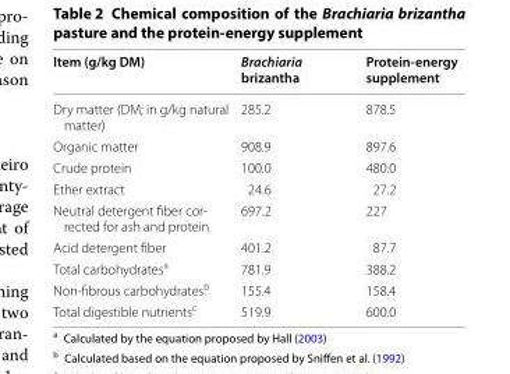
<table><thead><tr><td>Item (g/kg DM)</td><td>Brachiaria brizantha</td><td>Protein-energy supplement</td></tr></thead><tbody><tr><td>Dry matter (DM; in g/kg natural matter)</td><td>285.2</td><td>878.5</td></tr><tr><td>Organic matter</td><td>908.9</td><td>897.6</td></tr><tr><td>Crude protein</td><td>100.0</td><td>480.0</td></tr><tr><td>Ether extract</td><td>24.6</td><td>27.2</td></tr><tr><td>Neutral detergent fiber cor- rected for ash and protein</td><td>697.2</td><td>227</td></tr><tr><td>Acid detergent fiber</td><td>401.2</td><td>87.7</td></tr><tr><td>Total carbohydrates<sup>a</sup></td><td>781.9</td><td>388.2</td></tr><tr><td>Non-fibrous carbohydrates<sup>b</sup></td><td>155.4</td><td>158.4</td></tr><tr><td>Total digestible nutrients<sup>c</sup></td><td>519.9</td><td>600.0</td></tr></tbody></table>